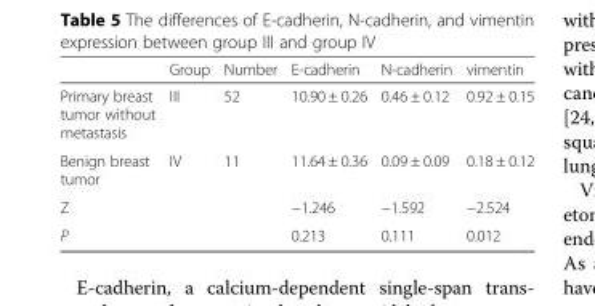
<table><thead><tr><td></td><td>Group</td><td>Number</td><td>E-cadherin</td><td>N-cadherin</td><td>vimentin</td></tr></thead><tbody><tr><td>Primary breast tumor without metastasis</td><td>III</td><td>52</td><td>10.90 ± 0.26</td><td>0.46 ± 0.12</td><td>0.92 ± 0.15</td></tr><tr><td>Benign breast tumor</td><td>IV</td><td>11</td><td>11.64 ± 0.36</td><td>0.09 ± 0.09</td><td>0.18 ± 0.12</td></tr><tr><td>Z</td><td></td><td></td><td>−1.246</td><td>−1.592</td><td>−2.524</td></tr><tr><td>P</td><td></td><td></td><td>0.213</td><td>0.111</td><td>0.012</td></tr></tbody></table>